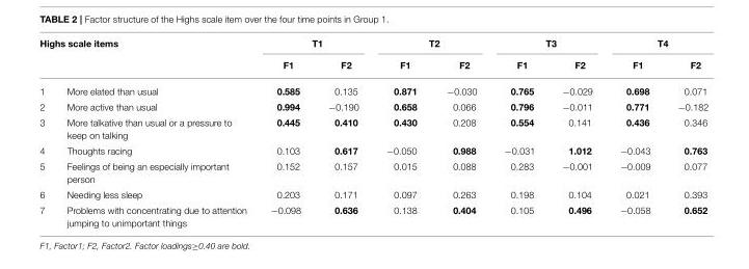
<table><thead><tr><td colspan="2">Highs scale items</td><td colspan="2">T1</td><td colspan="2">T2</td><td colspan="2">T3</td><td colspan="2">T4</td></tr><tr><td></td><td></td><td>F1</td><td>F2</td><td>F1</td><td>F2</td><td>F1</td><td>F2</td><td>F1</td><td>F2</td></tr></thead><tbody><tr><td>1</td><td>More elated than usual</td><td>0.585</td><td>0.135</td><td>0.871</td><td>−0.030</td><td>0.765</td><td>−0.029</td><td>0.698</td><td>0.071</td></tr><tr><td>2</td><td>More active than usual</td><td>0.994</td><td>−0.190</td><td>0.658</td><td>0.066</td><td>0.796</td><td>−0.011</td><td>0.771</td><td>−0.182</td></tr><tr><td>3</td><td>More talkative than usual or a pressure to keep on talking</td><td>0.445</td><td>0.410</td><td>0.430</td><td>0.208</td><td>0.554</td><td>0.141</td><td>0.436</td><td>0.346</td></tr><tr><td>4</td><td>Thoughts racing</td><td>0.103</td><td>0.617</td><td>−0.050</td><td>0.988</td><td>−0.031</td><td>1.012</td><td>−0.043</td><td>0.763</td></tr><tr><td>5</td><td>Feelings of being an especially important person</td><td>0.152</td><td>0.157</td><td>0.015</td><td>0.088</td><td>0.283</td><td>−0.001</td><td>−0.009</td><td>0.077</td></tr><tr><td>6</td><td>Needing less sleep</td><td>0.203</td><td>0.171</td><td>0.097</td><td>0.263</td><td>0.198</td><td>0.104</td><td>0.021</td><td>0.393</td></tr><tr><td>7</td><td>Problems with concentrating due to attention jumping to unimportant things</td><td>−0.098</td><td>0.636</td><td>0.138</td><td>0.404</td><td>0.105</td><td>0.496</td><td>−0.058</td><td>0.652</td></tr></tbody></table>